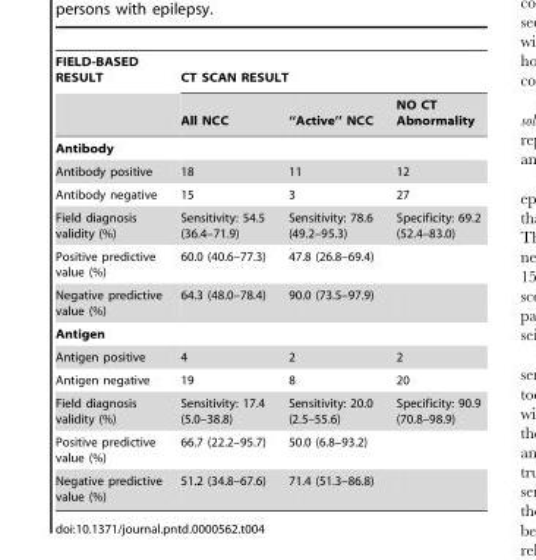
<table><thead><tr><td rowspan="2">FIELD-BASED RESULT</td><td colspan="3">CT SCAN RESULT</td></tr><tr><td>All NCC</td><td>‘‘Active’’ NCC</td><td>NO CT Abnormality</td></tr></thead><tbody><tr><td colspan="4">Antibody</td></tr><tr><td>Antibody positive</td><td>18</td><td>11</td><td>12</td></tr><tr><td>Antibody negative</td><td>15</td><td>3</td><td>27</td></tr><tr><td>Field diagnosis validity (%)</td><td>Sensitivity: 54.5 (36.4–71.9)</td><td>Sensitivity: 78.6 (49.2–95.3)</td><td>Specificity: 69.2 (52.4–83.0)</td></tr><tr><td>Positive predictive value (%)</td><td>60.0 (40.6–77.3)</td><td>47.8 (26.8–69.4)</td><td></td></tr><tr><td>Negative predictive value (%)</td><td>64.3 (48.0–78.4)</td><td>90.0 (73.5–97.9)</td><td></td></tr><tr><td colspan="4">Antigen</td></tr><tr><td>Antigen positive</td><td>4</td><td>2</td><td>2</td></tr><tr><td>Antigen negative</td><td>19</td><td>8</td><td>20</td></tr><tr><td>Field diagnosis validity (%)</td><td>Sensitivity: 17.4 (5.0–38.8)</td><td>Sensitivity: 20.0 (2.5–55.6)</td><td>Specificity: 90.9 (70.8–98.9)</td></tr><tr><td>Positive predictive value (%)</td><td>66.7 (22.2–95.7)</td><td>50.0 (6.8–93.2)</td><td></td></tr><tr><td>Negative predictive value (%)</td><td>51.2 (34.8–67.6)</td><td>71.4 (51.3–86.8)</td><td></td></tr></tbody></table>